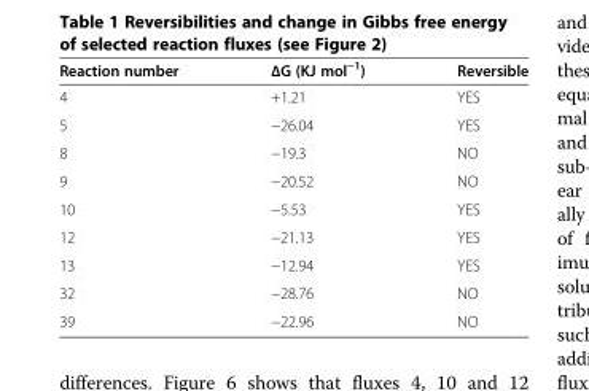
<table><thead><tr><td>Reaction number</td><td>ΔG (KJ mol−1)</td><td>Reversible</td></tr></thead><tbody><tr><td>4</td><td>+1.21</td><td>YES</td></tr><tr><td>5</td><td>−26.04</td><td>YES</td></tr><tr><td>8</td><td>−19.3</td><td>NO</td></tr><tr><td>9</td><td>−20.52</td><td>NO</td></tr><tr><td>10</td><td>−5.53</td><td>YES</td></tr><tr><td>12</td><td>−21.13</td><td>YES</td></tr><tr><td>13</td><td>−12.94</td><td>YES</td></tr><tr><td>32</td><td>−28.76</td><td>NO</td></tr><tr><td>39</td><td>−22.96</td><td>NO</td></tr></tbody></table>